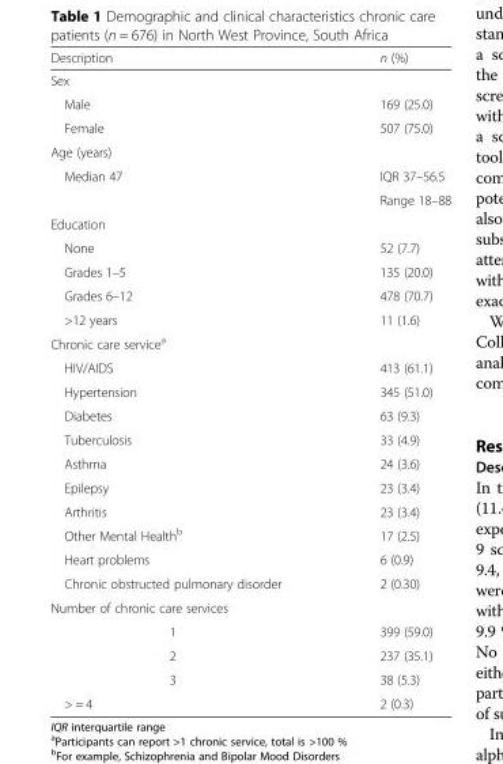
<table><thead><tr><td>Description</td><td>n (%)</td></tr></thead><tbody><tr><td colspan="2">Sex</td></tr><tr><td>Male</td><td>169 (25.0)</td></tr><tr><td>Female</td><td>507 (75.0)</td></tr><tr><td colspan="2">Age (years)</td></tr><tr><td rowspan="2">Median 47</td><td>IQR 37–56.5</td></tr><tr><td>Range 18–88</td></tr><tr><td colspan="2">Education</td></tr><tr><td>None</td><td>52 (7.7)</td></tr><tr><td>Grades 1–5</td><td>135 (20.0)</td></tr><tr><td>Grades 6–12</td><td>478 (70.7)</td></tr><tr><td>&gt;12 years</td><td>11 (1.6)</td></tr><tr><td colspan="2">Chronic care service<sup>a</sup></td></tr><tr><td>HIV/AIDS</td><td>413 (61.1)</td></tr><tr><td>Hypertension</td><td>345 (51.0)</td></tr><tr><td>Diabetes</td><td>63 (9.3)</td></tr><tr><td>Tuberculosis</td><td>33 (4.9)</td></tr><tr><td>Asthma</td><td>24 (3.6)</td></tr><tr><td>Epilepsy</td><td>23 (3.4)</td></tr><tr><td>Arthritis</td><td>23 (3.4)</td></tr><tr><td>Other Mental Health<sup>b</sup></td><td>17 (2.5)</td></tr><tr><td>Heart problems</td><td>6 (0.9)</td></tr><tr><td>Chronic obstructed pulmonary disorder</td><td>2 (0.30)</td></tr><tr><td colspan="2">Number of chronic care services</td></tr><tr><td>1</td><td>399 (59.0)</td></tr><tr><td>2</td><td>237 (35.1)</td></tr><tr><td>3</td><td>38 (5.3)</td></tr><tr><td>&gt; = 4</td><td>2 (0.3)</td></tr></tbody></table>